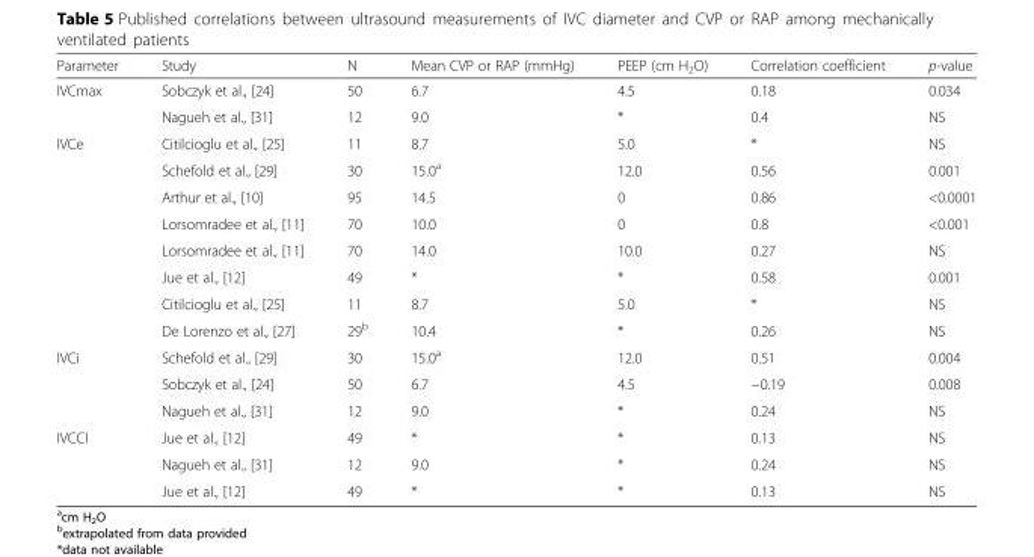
<table><thead><tr><td>Parameter</td><td>Study</td><td>N</td><td>Mean CVP or RAP (mmHg)</td><td>PEEP (cm H<sub>2</sub>O)</td><td>Correlation coefficient</td><td>p-value</td></tr></thead><tbody><tr><td rowspan="2">IVCmax</td><td>Sobczyk et al., [24]</td><td>50</td><td>6.7</td><td>4.5</td><td>0.18</td><td>0.034</td></tr><tr><td>Nagueh et al., [31]</td><td>12</td><td>9.0</td><td>*</td><td>0.4</td><td>NS</td></tr><tr><td rowspan="8">IVCe</td><td>Citilcioglu et al., [25]</td><td>11</td><td>8.7</td><td>5.0</td><td>*</td><td>NS</td></tr><tr><td>Schefold et al., [29]</td><td>30</td><td>15.0<sup>a</sup></td><td>12.0</td><td>0.56</td><td>0.001</td></tr><tr><td>Arthur et al., [10]</td><td>95</td><td>14.5</td><td>0</td><td>0.86</td><td>&lt;0.0001</td></tr><tr><td>Lorsomradee et al., [11]</td><td>70</td><td>10.0</td><td>0</td><td>0.8</td><td>&lt;0.001</td></tr><tr><td>Lorsomradee et al., [11]</td><td>70</td><td>14.0</td><td>10.0</td><td>0.27</td><td>NS</td></tr><tr><td>Jue et al., [12]</td><td>49</td><td>*</td><td>*</td><td>0.58</td><td>0.001</td></tr><tr><td>Citilcioglu et al., [25]</td><td>11</td><td>8.7</td><td>5.0</td><td>*</td><td>NS</td></tr><tr><td>De Lorenzo et al., [27]</td><td>29<sup>b</sup></td><td>10.4</td><td>*</td><td>0.26</td><td>NS</td></tr><tr><td rowspan="3">IVCi</td><td>Schefold et al., [29]</td><td>30</td><td>15.0<sup>a</sup></td><td>12.0</td><td>0.51</td><td>0.004</td></tr><tr><td>Sobczyk et al., [24]</td><td>50</td><td>6.7</td><td>4.5</td><td>−0.19</td><td>0.008</td></tr><tr><td>Nagueh et al., [31]</td><td>12</td><td>9.0</td><td>*</td><td>0.24</td><td>NS</td></tr><tr><td rowspan="3">IVCCI</td><td>Jue et al., [12]</td><td>49</td><td>*</td><td>*</td><td>0.13</td><td>NS</td></tr><tr><td>Nagueh et al., [31]</td><td>12</td><td>9.0</td><td>*</td><td>0.24</td><td>NS</td></tr><tr><td>Jue et al., [12]</td><td>49</td><td>*</td><td>*</td><td>0.13</td><td>NS</td></tr></tbody></table>